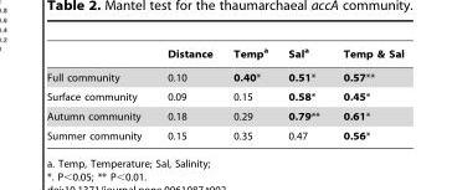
<table><thead><tr><td></td><td>Distance</td><td>Temp<sup>a</sup></td><td>Sal<sup>a</sup></td><td>Temp &amp; Sal</td></tr></thead><tbody><tr><td>Full community</td><td>0.10</td><td>0.40*</td><td>0.51*</td><td>0.57**</td></tr><tr><td>Surface community</td><td>0.09</td><td>0.15</td><td>0.58*</td><td>0.45*</td></tr><tr><td>Autumn community</td><td>0.18</td><td>0.29</td><td>0.79**</td><td>0.61*</td></tr><tr><td>Summer community</td><td>0.15</td><td>0.35</td><td>0.47</td><td>0.56*</td></tr></tbody></table>